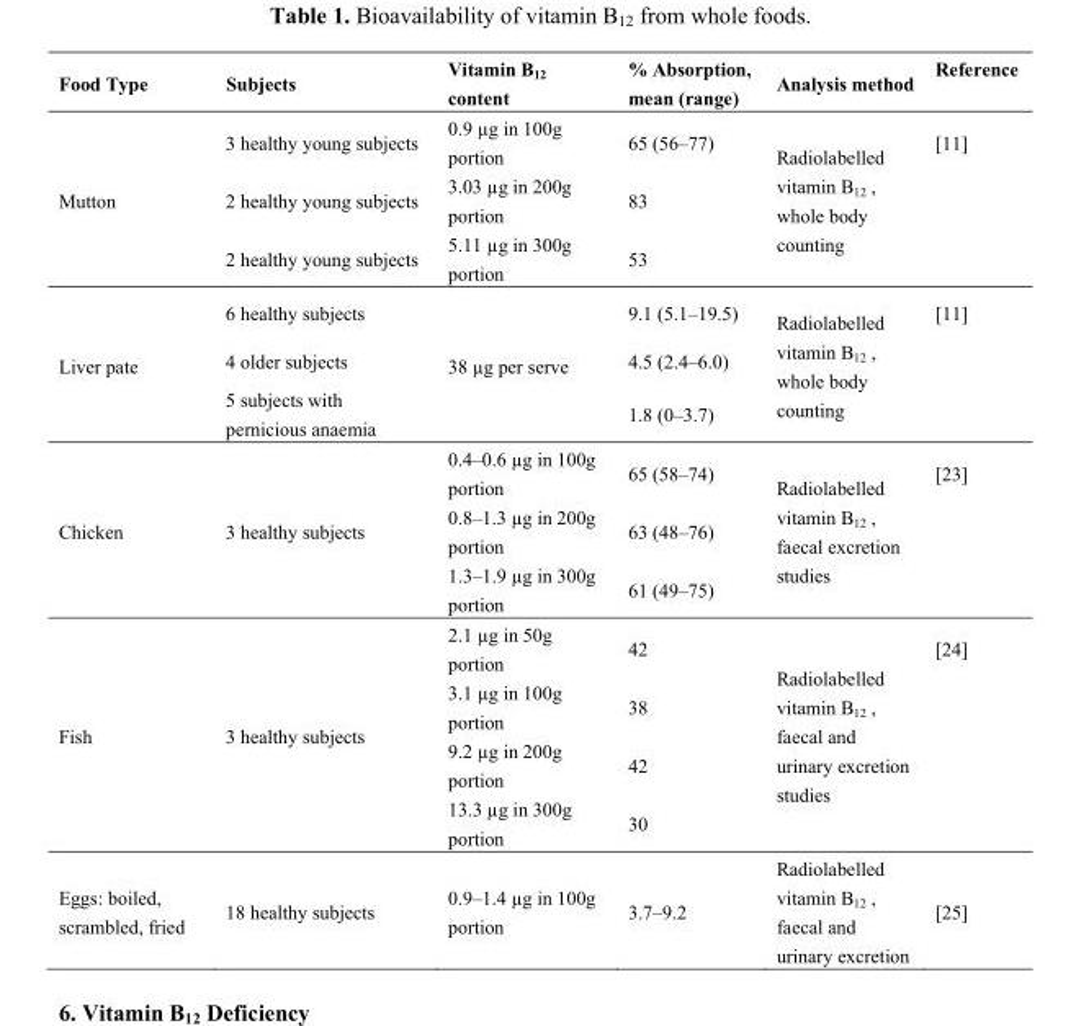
<table><thead><tr><td>Food Type</td><td>Subjects</td><td>Vitamin B<sub>12</sub> content</td><td>% Absorption, mean (range)</td><td>Analysis method</td><td>Reference</td></tr></thead><tbody><tr><td rowspan="3">Mutton</td><td>3 healthy young subjects</td><td>0.9 µg in 100g portion</td><td>65 (56–77)</td><td rowspan="3">Radiolabelled vitamin B<sub>12</sub> , whole body counting</td><td>[11]</td></tr><tr><td>2 healthy young subjects</td><td>3.03 µg in 200g portion</td><td>83</td><td></td></tr><tr><td>2 healthy young subjects</td><td>5.11 µg in 300g portion</td><td>53</td><td></td></tr><tr><td rowspan="3">Liver pate</td><td>6 healthy subjects</td><td rowspan="3">38 µg per serve</td><td>9.1 (5.1–19.5)</td><td rowspan="3">Radiolabelled vitamin B<sub>12</sub> , whole body counting</td><td>[11]</td></tr><tr><td>4 older subjects</td><td>4.5 (2.4–6.0)</td><td></td></tr><tr><td>5 subjects with pernicious anaemia</td><td>1.8 (0–3.7)</td><td></td></tr><tr><td rowspan="3">Chicken</td><td rowspan="3">3 healthy subjects</td><td>0.4–0.6 µg in 100g portion</td><td>65 (58–74)</td><td rowspan="3">Radiolabelled vitamin B<sub>12</sub> , faecal excretion studies</td><td>[23]</td></tr><tr><td>0.8–1.3 µg in 200g portion</td><td>63 (48–76)</td><td></td></tr><tr><td>1.3–1.9 µg in 300g portion</td><td>61 (49–75)</td><td></td></tr><tr><td rowspan="4">Fish</td><td rowspan="4">3 healthy subjects</td><td>2.1 µg in 50g portion</td><td>42</td><td rowspan="4">Radiolabelled vitamin B<sub>12</sub> , faecal and urinary excretion studies</td><td>[24]</td></tr><tr><td>3.1 µg in 100g portion</td><td>38</td><td></td></tr><tr><td>9.2 µg in 200g portion</td><td>42</td><td></td></tr><tr><td>13.3 µg in 300g portion</td><td>30</td><td></td></tr><tr><td>Eggs: boiled, scrambled, fried</td><td>18 healthy subjects</td><td>0.9–1.4 µg in 100g portion</td><td>3.7–9.2</td><td>Radiolabelled vitamin B<sub>12</sub> , faecal and urinary excretion</td><td>[25]</td></tr></tbody></table>